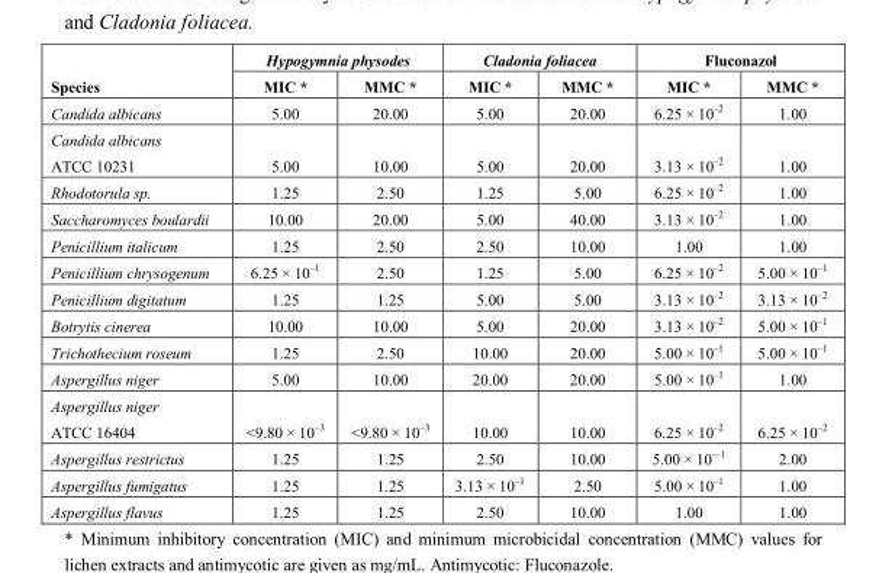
<table><thead><tr><td rowspan="2">Species</td><td colspan="2">Hypogymnia physodes</td><td colspan="2">Cladonia foliacea</td><td colspan="2">Fluconazol</td></tr><tr><td>MIC *</td><td>MMC *</td><td>MIC *</td><td>MMC *</td><td>MIC *</td><td>MMC *</td></tr></thead><tbody><tr><td>Candida albicans</td><td>5.00</td><td>20.00</td><td>5.00</td><td>20.00</td><td>6.25 × 10<sup>–2</sup></td><td>1.00</td></tr><tr><td>Candida albicans ATCC 10231</td><td>5.00</td><td>10.00</td><td>5.00</td><td>20.00</td><td>3.13 × 10<sup>–2</sup></td><td>1.00</td></tr><tr><td>Rhodotorula sp.</td><td>1.25</td><td>2.50</td><td>1.25</td><td>5.00</td><td>6.25 × 10<sup>–2</sup></td><td>1.00</td></tr><tr><td>Saccharomyces boulardii</td><td>10.00</td><td>20.00</td><td>5.00</td><td>40.00</td><td>3.13 × 10<sup>–2</sup></td><td>1.00</td></tr><tr><td>Penicillium italicum</td><td>1.25</td><td>2.50</td><td>2.50</td><td>10.00</td><td>1.00</td><td>1.00</td></tr><tr><td>Penicillium chrysogenum</td><td>6.25 × 10<sup>–1</sup></td><td>2.50</td><td>1.25</td><td>5.00</td><td>6.25 × 10<sup>–2</sup></td><td>5.00 × 10<sup>–1</sup></td></tr><tr><td>Penicillium digitatum</td><td>1.25</td><td>1.25</td><td>5.00</td><td>5.00</td><td>3.13 × 10<sup>–2</sup></td><td>3.13 × 10<sup>–2</sup></td></tr><tr><td>Botrytis cinerea</td><td>10.00</td><td>10.00</td><td>5.00</td><td>20.00</td><td>3.13 × 10<sup>–2</sup></td><td>5.00 × 10<sup>–1</sup></td></tr><tr><td>Trichothecium roseum</td><td>1.25</td><td>2.50</td><td>10.00</td><td>20.00</td><td>5.00 × 10<sup>–1</sup></td><td>5.00 × 10<sup>–1</sup></td></tr><tr><td>Aspergillus niger</td><td>5.00</td><td>10.00</td><td>20.00</td><td>20.00</td><td>5.00 × 10<sup>–1</sup></td><td>1.00</td></tr><tr><td>Aspergillus niger ATCC 16404</td><td>&lt;9.80 × 10<sup>–3</sup></td><td>&lt;9.80 × 10<sup>–3</sup></td><td>10.00</td><td>10.00</td><td>6.25 × 10<sup>–2</sup></td><td>6.25 × 10<sup>–2</sup></td></tr><tr><td>Aspergillus restrictus</td><td>1.25</td><td>1.25</td><td>2.50</td><td>10.00</td><td>5.00 × 10-–1</td><td>2.00</td></tr><tr><td>Aspergillus fumigatus</td><td>1.25</td><td>1.25</td><td>3.13 × 10<sup>–1</sup></td><td>2.50</td><td>5.00 × 10<sup>–1</sup></td><td>1.00</td></tr><tr><td>Aspergillus flavus</td><td>1.25</td><td>1.25</td><td>2.50</td><td>10.00</td><td>1.00</td><td>1.00</td></tr></tbody></table>